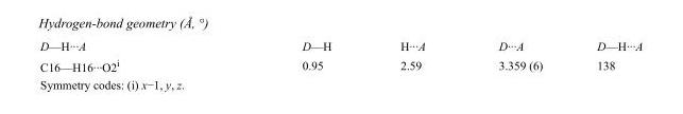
<table><tbody><tr><td>D—H···A</td><td>D—H</td><td>H···A</td><td>D···A</td><td>D—H···A</td></tr><tr><td>C16—H16···O2<sup>i</sup></td><td>0.95</td><td>2.59</td><td>3.359 (6)</td><td>138</td></tr></tbody></table>